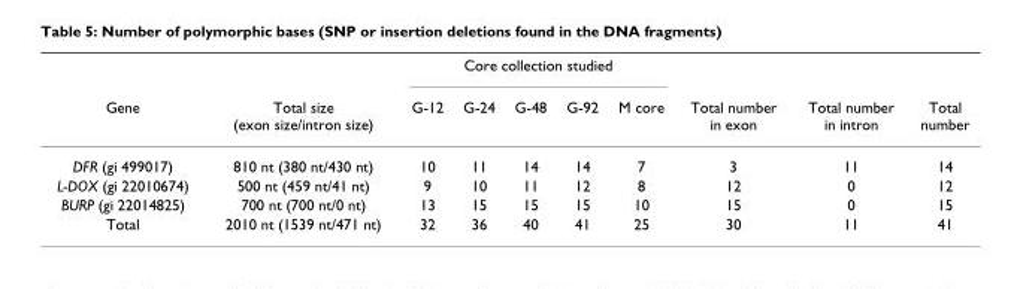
<table><thead><tr><td rowspan="2">Gene</td><td rowspan="2">Total size (exon size/intron size)</td><td colspan="5">Core collection studied</td><td rowspan="2">Total number in exon</td><td rowspan="2">Total number in intron</td><td rowspan="2">Total number</td></tr><tr><td>G-12</td><td>G-24</td><td>G-48</td><td>G-92</td><td>M core</td></tr></thead><tbody><tr><td>DFR (gi 499017)</td><td>810 nt (380 nt/430 nt)</td><td>10</td><td>11</td><td>14</td><td>14</td><td>7</td><td>3</td><td>11</td><td>14</td></tr><tr><td>L-DOX (gi 22010674)</td><td>500 nt (459 nt/41 nt)</td><td>9</td><td>10</td><td>11</td><td>12</td><td>8</td><td>12</td><td>0</td><td>12</td></tr><tr><td>BURP (gi 22014825)</td><td>700 nt (700 nt/0 nt)</td><td>13</td><td>15</td><td>15</td><td>15</td><td>10</td><td>15</td><td>0</td><td>15</td></tr><tr><td>Total</td><td>2010 nt (1539 nt/471 nt)</td><td>32</td><td>36</td><td>40</td><td>41</td><td>25</td><td>30</td><td>11</td><td>41</td></tr></tbody></table>